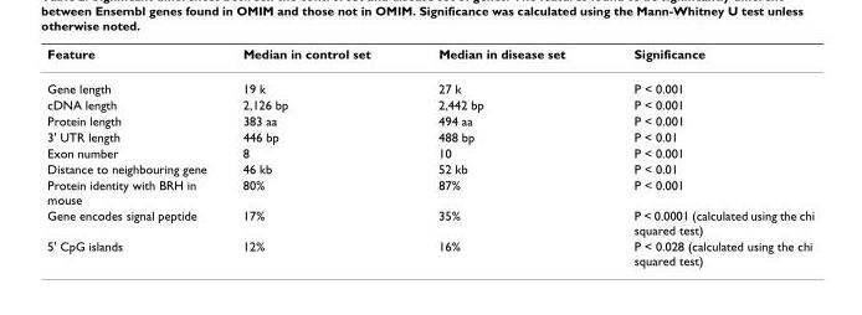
<table><thead><tr><td>Feature</td><td>Median in control set</td><td>Median in disease set</td><td>Significance</td></tr></thead><tbody><tr><td>Gene length</td><td>19 k</td><td>27 k</td><td>P &lt; 0.001</td></tr><tr><td>cDNA length</td><td>2,126 bp</td><td>2,442 bp</td><td>P &lt; 0.001</td></tr><tr><td>Protein length</td><td>383 aa</td><td>494 aa</td><td>P &lt; 0.001</td></tr><tr><td>3&#x27; UTR length</td><td>446 bp</td><td>488 bp</td><td>P &lt; 0.01</td></tr><tr><td>Exon number</td><td>8</td><td>10</td><td>P &lt; 0.001</td></tr><tr><td>Distance to neighbouring gene</td><td>46 kb</td><td>52 kb</td><td>P &lt; 0.01</td></tr><tr><td>Protein identity with BRH in mouse</td><td>80%</td><td>87%</td><td>P &lt; 0.001</td></tr><tr><td>Gene encodes signal peptide</td><td>17%</td><td>35%</td><td>P &lt; 0.0001 (calculated using the chi squared test)</td></tr><tr><td>5&#x27; CpG islands</td><td>12%</td><td>16%</td><td>P &lt; 0.028 (calculated using the chi squared test)</td></tr></tbody></table>